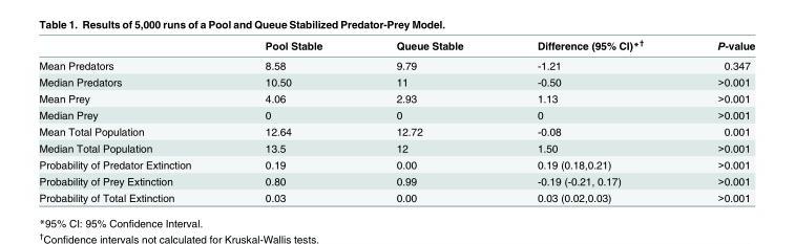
<table><thead><tr><td></td><td>Pool Stable</td><td>Queue Stable</td><td>Difference (95% CI)*<sup>†</sup></td><td>P-value</td></tr></thead><tbody><tr><td>Mean Predators</td><td>8.58</td><td>9.79</td><td>-1.21</td><td>0.347</td></tr><tr><td>Median Predators</td><td>10.50</td><td>11</td><td>-0.50</td><td>&gt;0.001</td></tr><tr><td>Mean Prey</td><td>4.06</td><td>2.93</td><td>1.13</td><td>&gt;0.001</td></tr><tr><td>Median Prey</td><td>0</td><td>0</td><td>0</td><td>&gt;0.001</td></tr><tr><td>Mean Total Population</td><td>12.64</td><td>12.72</td><td>-0.08</td><td>0.001</td></tr><tr><td>Median Total Population</td><td>13.5</td><td>12</td><td>1.50</td><td>&gt;0.001</td></tr><tr><td>Probability of Predator Extinction</td><td>0.19</td><td>0.00</td><td>0.19 (0.18,0.21)</td><td>&gt;0.001</td></tr><tr><td>Probability of Prey Extinction</td><td>0.80</td><td>0.99</td><td>-0.19 (-0.21, 0.17)</td><td>&gt;0.001</td></tr><tr><td>Probability of Total Extinction</td><td>0.03</td><td>0.00</td><td>0.03 (0.02,0.03)</td><td>&gt;0.001</td></tr></tbody></table>